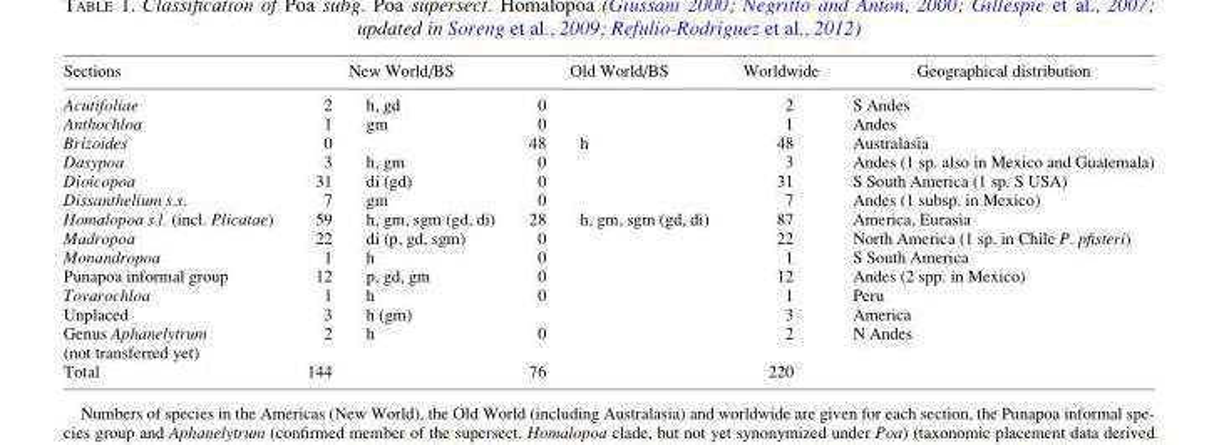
<table><thead><tr><td rowspan="2">Sections Acutifoliae</td><td colspan="2">New World/BS</td><td colspan="2">Old World/BS</td><td rowspan="2">Worldwide 2</td><td rowspan="2">Geographical distribution S Andes</td></tr><tr><td>2</td><td>h, gd</td><td>0</td><td></td></tr></thead><tbody><tr><td>Anthochloa</td><td>1</td><td>gm</td><td>0</td><td></td><td>1</td><td>Andes</td></tr><tr><td>Brizoides</td><td>0</td><td></td><td>48</td><td>h</td><td>48</td><td>Australasia</td></tr><tr><td>Dasypoa</td><td>3</td><td>h, gm</td><td>0</td><td></td><td>3</td><td>Andes (1 sp. also in Mexico and Guatemala)</td></tr><tr><td>Dioicopoa</td><td>31</td><td>di (gd)</td><td>0</td><td></td><td>31</td><td>S South America (1 sp. S USA)</td></tr><tr><td>Dissanthelium s.s.</td><td>7</td><td>gm</td><td>0</td><td></td><td>7</td><td>Andes (1 subsp. in Mexico)</td></tr><tr><td>Homalopoa s.l. (incl. Plicatae)</td><td>59</td><td>h, gm, sgm (gd, di)</td><td>28</td><td>h, gm, sgm (gd, di)</td><td>87</td><td>America, Eurasia</td></tr><tr><td>Madropoa</td><td>22</td><td>di (p, gd, sgm)</td><td>0</td><td></td><td>22</td><td>North America (1 sp. in Chile P. pfisteri)</td></tr><tr><td>Monandropoa</td><td>1</td><td>h</td><td>0</td><td></td><td>1</td><td>S South America</td></tr><tr><td>Punapoa informal group</td><td>12</td><td>p, gd, gm</td><td>0</td><td></td><td>12</td><td>Andes (2 spp. in Mexico)</td></tr><tr><td>Tovarochloa</td><td>1</td><td>h</td><td>0</td><td></td><td>1</td><td>Peru</td></tr><tr><td>Unplaced</td><td>3</td><td>h (gm)</td><td></td><td></td><td>3</td><td>America</td></tr><tr><td>Genus Aphanelytrum (not transferred yet)</td><td>2</td><td>h</td><td>0</td><td></td><td>2</td><td>N Andes</td></tr><tr><td>Total</td><td>144</td><td></td><td>76</td><td></td><td>220</td><td></td></tr></tbody></table>